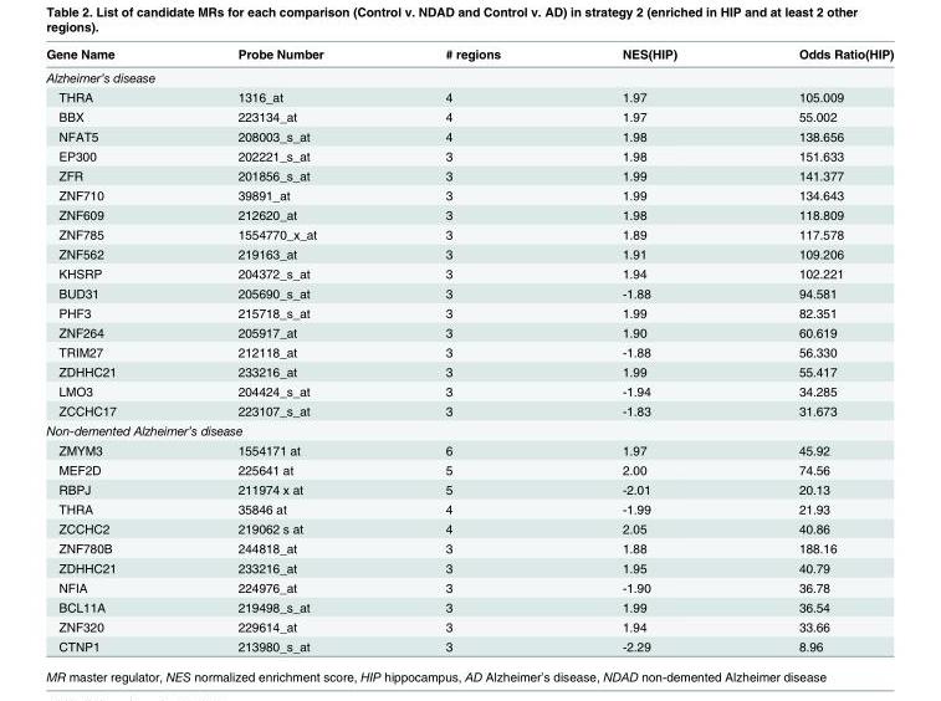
<table><thead><tr><td>Gene Name</td><td>Probe Number</td><td># regions</td><td>NES(HIP)</td><td>Odds Ratio(HIP)</td></tr></thead><tbody><tr><td colspan="5">Alzheimer’s disease</td></tr><tr><td>THRA</td><td>1316_at</td><td>4</td><td>1.97</td><td>105.009</td></tr><tr><td>BBX</td><td>223134_at</td><td>4</td><td>1.97</td><td>55.002</td></tr><tr><td>NFAT5</td><td>208003_s_at</td><td>4</td><td>1.98</td><td>138.656</td></tr><tr><td>EP300</td><td>202221_s_at</td><td>3</td><td>1.98</td><td>151.633</td></tr><tr><td>ZFR</td><td>201856_s_at</td><td>3</td><td>1.99</td><td>141.377</td></tr><tr><td>ZNF710</td><td>39891_at</td><td>3</td><td>1.99</td><td>134.643</td></tr><tr><td>ZNF609</td><td>212620_at</td><td>3</td><td>1.98</td><td>118.809</td></tr><tr><td>ZNF785</td><td>1554770_x_at</td><td>3</td><td>1.89</td><td>117.578</td></tr><tr><td>ZNF562</td><td>219163_at</td><td>3</td><td>1.91</td><td>109.206</td></tr><tr><td>KHSRP</td><td>204372_s_at</td><td>3</td><td>1.94</td><td>102.221</td></tr><tr><td>BUD31</td><td>205690_s_at</td><td>3</td><td>-1.88</td><td>94.581</td></tr><tr><td>PHF3</td><td>215718_s_at</td><td>3</td><td>1.99</td><td>82.351</td></tr><tr><td>ZNF264</td><td>205917_at</td><td>3</td><td>1.90</td><td>60.619</td></tr><tr><td>TRIM27</td><td>212118_at</td><td>3</td><td>-1.88</td><td>56.330</td></tr><tr><td>ZDHHC21</td><td>233216_at</td><td>3</td><td>1.99</td><td>55.417</td></tr><tr><td>LMO3</td><td>204424_s_at</td><td>3</td><td>-1.94</td><td>34.285</td></tr><tr><td>ZCCHC17</td><td>223107_s_at</td><td>3</td><td>-1.83</td><td>31.673</td></tr><tr><td colspan="5">Non-demented Alzheimer’s disease</td></tr><tr><td>ZMYM3</td><td>1554171 at</td><td>6</td><td>1.97</td><td>45.92</td></tr><tr><td>MEF2D</td><td>225641 at</td><td>5</td><td>2.00</td><td>74.56</td></tr><tr><td>RBPJ</td><td>211974 x at</td><td>5</td><td>-2.01</td><td>20.13</td></tr><tr><td>THRA</td><td>35846 at</td><td>4</td><td>-1.99</td><td>21.93</td></tr><tr><td>ZCCHC2</td><td>219062 s at</td><td>4</td><td>2.05</td><td>40.86</td></tr><tr><td>ZNF780B</td><td>244818_at</td><td>3</td><td>1.88</td><td>188.16</td></tr><tr><td>ZDHHC21</td><td>233216_at</td><td>3</td><td>1.95</td><td>40.79</td></tr><tr><td>NFIA</td><td>224976_at</td><td>3</td><td>-1.90</td><td>36.78</td></tr><tr><td>BCL11A</td><td>219498_s_at</td><td>3</td><td>1.99</td><td>36.54</td></tr><tr><td>ZNF320</td><td>229614_at</td><td>3</td><td>1.94</td><td>33.66</td></tr><tr><td>CTNP1</td><td>213980_s_at</td><td>3</td><td>-2.29</td><td>8.96</td></tr></tbody></table>